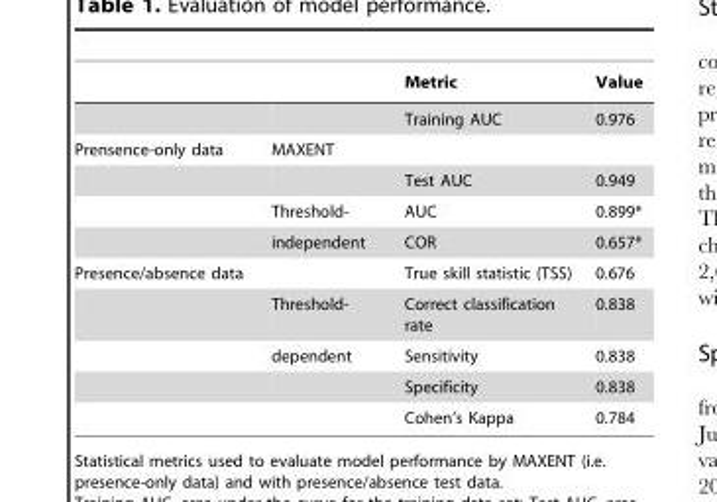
<table><thead><tr><td></td><td></td><td>Metric</td><td>Value</td></tr></thead><tbody><tr><td></td><td></td><td>Training AUC</td><td>0.976</td></tr><tr><td rowspan="4">Prensence-only data</td><td>MAXENT</td><td></td><td></td></tr><tr><td></td><td>Test AUC</td><td>0.949</td></tr><tr><td>Threshold-</td><td>AUC</td><td>0.899*</td></tr><tr><td>independent</td><td>COR</td><td>0.657*</td></tr><tr><td rowspan="5">Presence/absence data</td><td></td><td>True skill statistic (TSS)</td><td>0.676</td></tr><tr><td>Threshold-</td><td>Correct classification rate</td><td>0.838</td></tr><tr><td>dependent</td><td>Sensitivity</td><td>0.838</td></tr><tr><td></td><td>Specificity</td><td>0.838</td></tr><tr><td></td><td>Cohen’s Kappa</td><td>0.784</td></tr></tbody></table>